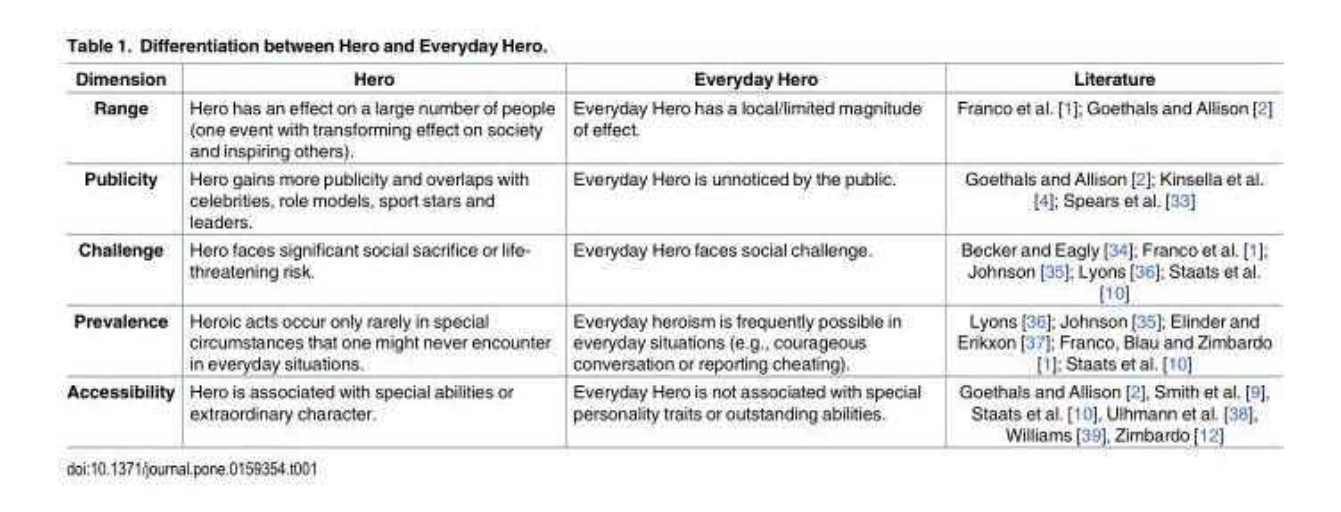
<table><thead><tr><td>Dimension</td><td>Hero</td><td>Everyday Hero</td><td>Literature</td></tr></thead><tbody><tr><td>Range</td><td>Hero has an effect on a large number of people (one event with transforming effect on society and inspiring others).</td><td>Everyday Hero has a local/limited magnitude of effect.</td><td>Franco et al. [1]; Goethals and Allison [2]</td></tr><tr><td>Publicity</td><td>Hero gains more publicity and overlaps with celebrities, role models, sport stars and leaders.</td><td>Everyday Hero is unnoticed by the public.</td><td>Goethals and Allison [2]; Kinsella et al. [4]; Spears et al. [33]</td></tr><tr><td>Challenge</td><td>Hero faces significant social sacrifice or life- threatening risk.</td><td>Everyday Hero faces social challenge.</td><td>Becker and Eagly [34]; Franco et al. [1]; Johnson [35]; Lyons [36]; Staats et al. [10]</td></tr><tr><td>Prevalence</td><td>Heroic acts occur only rarely in special circumstances that one might never encounter in everyday situations.</td><td>Everyday heroism is frequently possible in everyday situations (e.g., courageous conversation or reporting cheating).</td><td>Lyons [36]; Johnson [35]; Elinder and Erikxon [37]; Franco, Blau and Zimbardo [1]; Staats et al. [10]</td></tr><tr><td>Accessibility</td><td>Hero is associated with special abilities or extraordinary character.</td><td>Everyday Hero is not associated with special personality traits or outstanding abilities.</td><td>Goethals and Allison [2], Smith et al. [9], Staats et al. [10], Ulhmann et al. [38], Williams [39], Zimbardo [12]</td></tr></tbody></table>